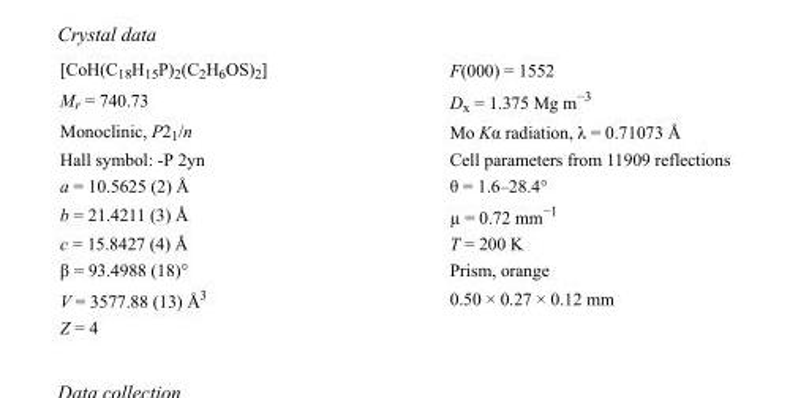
<table><tbody><tr><td>[CoH(C<sub>18</sub>H<sub>15</sub>P)<sub>2</sub>(C<sub>2</sub>H<sub>6</sub>OS)<sub>2</sub>]</td><td>F(000) = 1552</td></tr><tr><td>M<sub>r</sub> = 740.73</td><td>D<sub>x</sub> = 1.375 Mg m<sup>−3</sup></td></tr><tr><td>Monoclinic, P2<sub>1</sub>/n</td><td>Mo Kα radiation, λ = 0.71073 Å</td></tr><tr><td>Hall symbol: -P 2yn</td><td>Cell parameters from 11909 reflections</td></tr><tr><td>a = 10.5625 (2) Å</td><td>θ = 1.6–28.4°</td></tr><tr><td>b = 21.4211 (3) Å</td><td>µ = 0.72 mm<sup>−1</sup></td></tr><tr><td>c = 15.8427 (4) Å</td><td>T = 200 K</td></tr><tr><td>β = 93.4988 (18)°</td><td>Prism, orange</td></tr><tr><td>V = 3577.88 (13) Å<sup>3</sup></td><td>0.50 × 0.27 × 0.12 mm</td></tr><tr><td>Z = 4</td><td></td></tr></tbody></table>